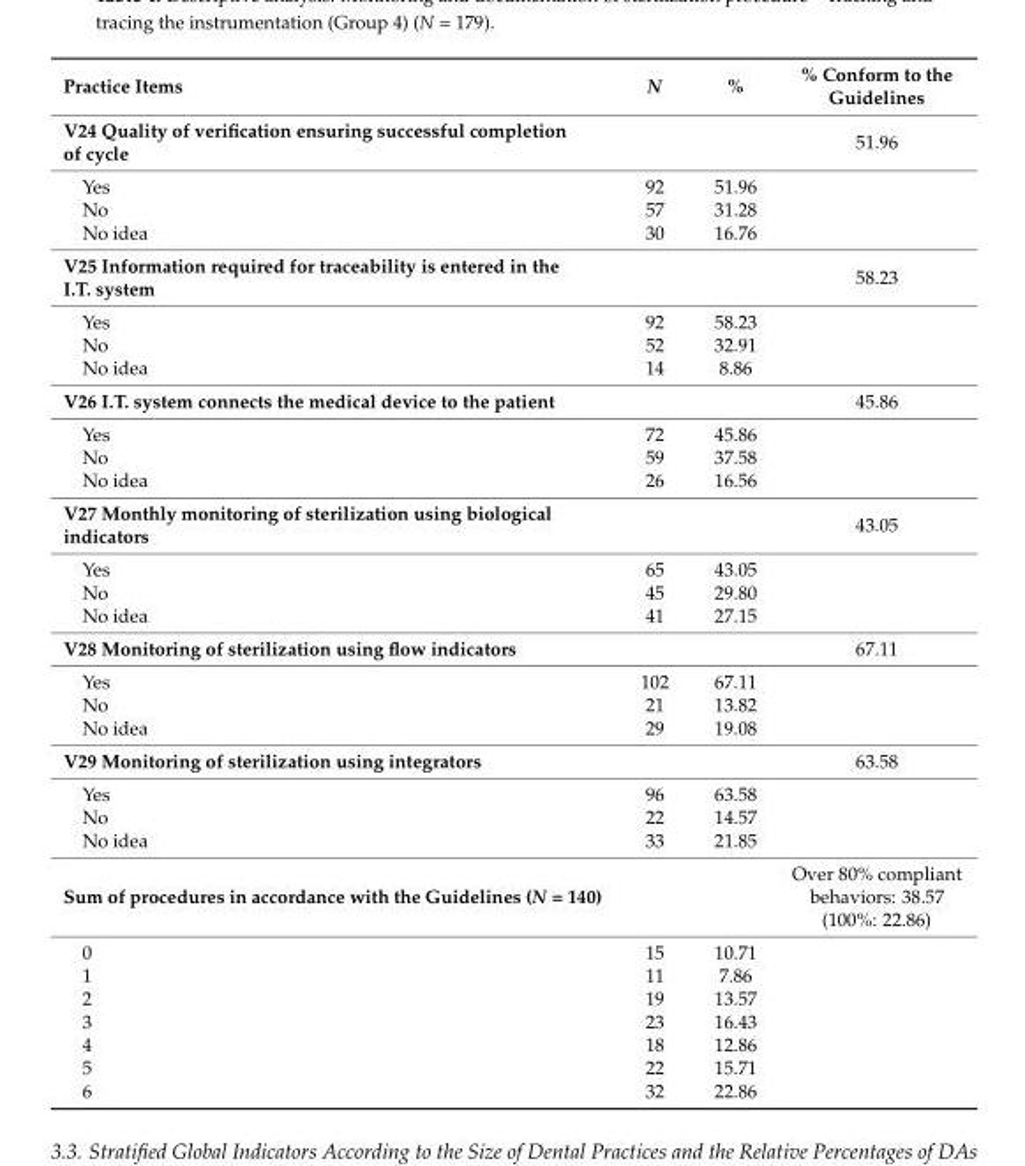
<table><thead><tr><td>Practice Items</td><td>N</td><td>%</td><td>% Conform to the Guidelines</td></tr></thead><tbody><tr><td>V24 Quality of verification ensuring successful completion of cycle</td><td></td><td></td><td>51.96</td></tr><tr><td>Yes</td><td>92</td><td>51.96</td><td></td></tr><tr><td>No</td><td>57</td><td>31.28</td><td></td></tr><tr><td>No idea</td><td>30</td><td>16.76</td><td></td></tr><tr><td>V25 Information required for traceability is entered in the I.T. system</td><td></td><td></td><td>58.23</td></tr><tr><td>Yes</td><td>92</td><td>58.23</td><td></td></tr><tr><td>No</td><td>52</td><td>32.91</td><td></td></tr><tr><td>No idea</td><td>14</td><td>8.86</td><td></td></tr><tr><td>V26 I.T. system connects the medical device to the patient</td><td></td><td></td><td>45.86</td></tr><tr><td>Yes</td><td>72</td><td>45.86</td><td></td></tr><tr><td>No</td><td>59</td><td>37.58</td><td></td></tr><tr><td>No idea</td><td>26</td><td>16.56</td><td></td></tr><tr><td>V27 Monthly monitoring of sterilization using biological indicators</td><td></td><td></td><td>43.05</td></tr><tr><td>Yes</td><td>65</td><td>43.05</td><td></td></tr><tr><td>No</td><td>45</td><td>29.80</td><td></td></tr><tr><td>No idea</td><td>41</td><td>27.15</td><td></td></tr><tr><td>V28 Monitoring of sterilization using flow indicators</td><td></td><td></td><td>67.11</td></tr><tr><td>Yes</td><td>102</td><td>67.11</td><td></td></tr><tr><td>No</td><td>21</td><td>13.82</td><td></td></tr><tr><td>No idea</td><td>29</td><td>19.08</td><td></td></tr><tr><td>V29 Monitoring of sterilization using integrators</td><td></td><td></td><td>63.58</td></tr><tr><td>Yes</td><td>96</td><td>63.58</td><td></td></tr><tr><td>No</td><td>22</td><td>14.57</td><td></td></tr><tr><td>No idea</td><td>33</td><td>21.85</td><td></td></tr><tr><td>Sum of procedures in accordance with the Guidelines (N = 140)</td><td></td><td></td><td>Over 80% compliant behaviors: 38.57 (100%: 22.86)</td></tr><tr><td>0</td><td>15</td><td>10.71</td><td></td></tr><tr><td>1</td><td>11</td><td>7.86</td><td></td></tr><tr><td>2</td><td>19</td><td>13.57</td><td></td></tr><tr><td>3</td><td>23</td><td>16.43</td><td></td></tr><tr><td>4</td><td>18</td><td>12.86</td><td></td></tr><tr><td>5</td><td>22</td><td>15.71</td><td></td></tr><tr><td>6</td><td>32</td><td>22.86</td><td></td></tr></tbody></table>